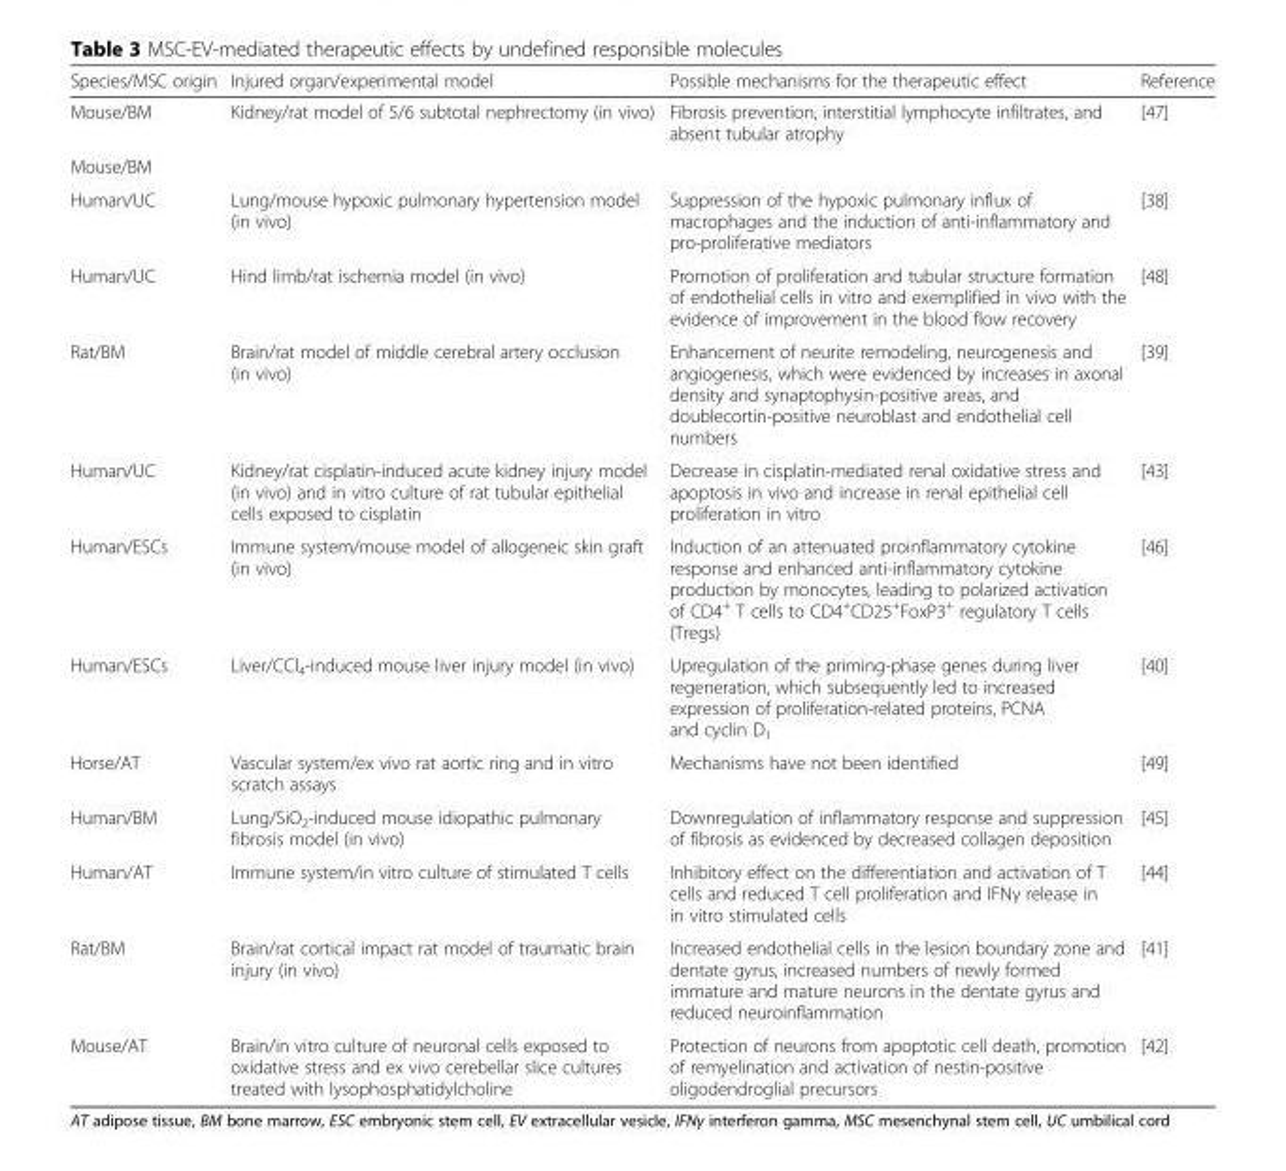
<table><thead><tr><td>Species/MSC origin</td><td>Injured organ/experimental model</td><td>Possible mechanisms for the therapeutic effect</td><td>Reference</td></tr></thead><tbody><tr><td>Mouse/BM</td><td>Kidney/rat model of 5/6 subtotal nephrectomy (in vivo)</td><td>Fibrosis prevention, interstitial lymphocyte infiltrates, and absent tubular atrophy</td><td>[47]</td></tr><tr><td colspan="4">Mouse/BM</td></tr><tr><td>Human/UC</td><td>Lung/mouse hypoxic pulmonary hypertension model (in vivo)</td><td>Suppression of the hypoxic pulmonary influx of macrophages and the induction of anti-inflammatory and pro-proliferative mediators</td><td>[38]</td></tr><tr><td>Human/UC</td><td>Hind limb/rat ischemia model (in vivo)</td><td>Promotion of proliferation and tubular structure formation of endothelial cells in vitro and exemplified in vivo with the evidence of improvement in the blood flow recovery</td><td>[48]</td></tr><tr><td>Rat/BM</td><td>Brain/rat model of middle cerebral artery occlusion (in vivo)</td><td>Enhancement of neurite remodeling, neurogenesis and angiogenesis, which were evidenced by increases in axonal density and synaptophysin-positive areas, and doublecortin-positive neuroblast and endothelial cell numbers</td><td>[39]</td></tr><tr><td>Human/UC</td><td>Kidney/rat cisplatin-induced acute kidney injury model (in vivo) and in vitro culture of rat tubular epithelial cells exposed to cisplatin</td><td>Decrease in cisplatin-mediated renal oxidative stress and apoptosis in vivo and increase in renal epithelial cell proliferation in vitro</td><td>[43]</td></tr><tr><td>Human/ESCs</td><td>Immune system/mouse model of allogeneic skin graft (in vivo)</td><td>Induction of an attenuated proinflammatory cytokine response and enhanced anti-inflammatory cytokine production by monocytes, leading to polarized activation of CD4<sup>+</sup> T cells to CD4<sup>+</sup>CD25<sup>+</sup>FoxP3<sup>+</sup> regulatory T cells (Tregs)</td><td>[46]</td></tr><tr><td>Human/ESCs</td><td>Liver/CCl<sub>4</sub>-induced mouse liver injury model (in vivo)</td><td>Upregulation of the priming-phase genes during liver regeneration, which subsequently led to increased expression of proliferation-related proteins, PCNA and cyclin D<sub>1</sub></td><td>[40]</td></tr><tr><td>Horse/AT</td><td>Vascular system/ex vivo rat aortic ring and in vitro scratch assays</td><td>Mechanisms have not been identified</td><td>[49]</td></tr><tr><td>Human/BM</td><td>Lung/SiO<sub>2</sub>-induced mouse idiopathic pulmonary fibrosis model (in vivo)</td><td>Downregulation of inflammatory response and suppression of fibrosis as evidenced by decreased collagen deposition</td><td>[45]</td></tr><tr><td>Human/AT</td><td>Immune system/in vitro culture of stimulated T cells</td><td>Inhibitory effect on the differentiation and activation of T cells and reduced T cell proliferation and IFNγ release in in vitro stimulated cells</td><td>[44]</td></tr><tr><td>Rat/BM</td><td>Brain/rat cortical impact rat model of traumatic brain injury (in vivo)</td><td>Increased endothelial cells in the lesion boundary zone and dentate gyrus, increased numbers of newly formed immature and mature neurons in the dentate gyrus and reduced neuroinflammation</td><td>[41]</td></tr><tr><td>Mouse/AT</td><td>Brain/in vitro culture of neuronal cells exposed to oxidative stress and ex vivo cerebellar slice cultures treated with lysophosphatidylcholine</td><td>Protection of neurons from apoptotic cell death, promotion of remyelination and activation of nestin-positive oligodendroglial precursors</td><td>[42]</td></tr></tbody></table>